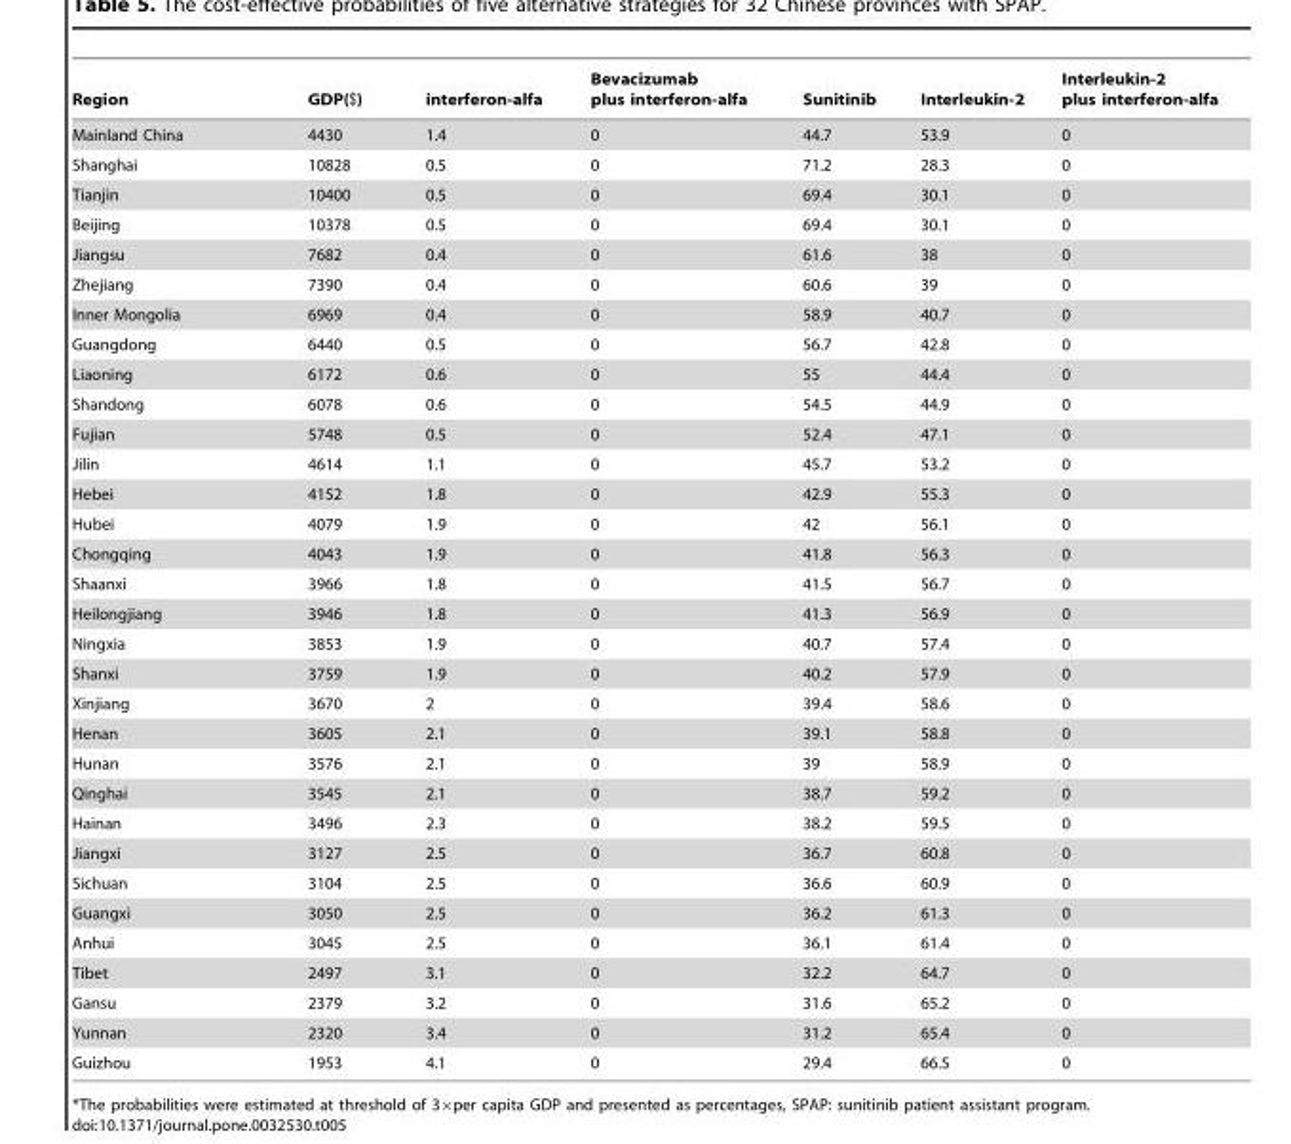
<table><thead><tr><td>Region</td><td>GDP($)</td><td>interferon-alfa</td><td>Bevacizumab plus interferon-alfa</td><td>Sunitinib</td><td>Interleukin-2</td><td>Interleukin-2 plus interferon-alfa</td></tr></thead><tbody><tr><td>Mainland China</td><td>4430</td><td>1.4</td><td>0</td><td>44.7</td><td>53.9</td><td>0</td></tr><tr><td>Shanghai</td><td>10828</td><td>0.5</td><td>0</td><td>71.2</td><td>28.3</td><td>0</td></tr><tr><td>Tianjin</td><td>10400</td><td>0.5</td><td>0</td><td>69.4</td><td>30.1</td><td>0</td></tr><tr><td>Beijing</td><td>10378</td><td>0.5</td><td>0</td><td>69.4</td><td>30.1</td><td>0</td></tr><tr><td>Jiangsu</td><td>7682</td><td>0.4</td><td>0</td><td>61.6</td><td>38</td><td>0</td></tr><tr><td>Zhejiang</td><td>7390</td><td>0.4</td><td>0</td><td>60.6</td><td>39</td><td>0</td></tr><tr><td>Inner Mongolia</td><td>6969</td><td>0.4</td><td>0</td><td>58.9</td><td>40.7</td><td>0</td></tr><tr><td>Guangdong</td><td>6440</td><td>0.5</td><td>0</td><td>56.7</td><td>42.8</td><td>0</td></tr><tr><td>Liaoning</td><td>6172</td><td>0.6</td><td>0</td><td>55</td><td>44.4</td><td>0</td></tr><tr><td>Shandong</td><td>6078</td><td>0.6</td><td>0</td><td>54.5</td><td>44.9</td><td>0</td></tr><tr><td>Fujian</td><td>5748</td><td>0.5</td><td>0</td><td>52.4</td><td>47.1</td><td>0</td></tr><tr><td>Jilin</td><td>4614</td><td>1.1</td><td>0</td><td>45.7</td><td>53.2</td><td>0</td></tr><tr><td>Hebei</td><td>4152</td><td>1.8</td><td>0</td><td>42.9</td><td>55.3</td><td>0</td></tr><tr><td>Hubei</td><td>4079</td><td>1.9</td><td>0</td><td>42</td><td>56.1</td><td>0</td></tr><tr><td>Chongqing</td><td>4043</td><td>1.9</td><td>0</td><td>41.8</td><td>56.3</td><td>0</td></tr><tr><td>Shaanxi</td><td>3966</td><td>1.8</td><td>0</td><td>41.5</td><td>56.7</td><td>0</td></tr><tr><td>Heilongjiang</td><td>3946</td><td>1.8</td><td>0</td><td>41.3</td><td>56.9</td><td>0</td></tr><tr><td>Ningxia</td><td>3853</td><td>1.9</td><td>0</td><td>40.7</td><td>57.4</td><td>0</td></tr><tr><td>Shanxi</td><td>3759</td><td>1.9</td><td>0</td><td>40.2</td><td>57.9</td><td>0</td></tr><tr><td>Xinjiang</td><td>3670</td><td>2</td><td>0</td><td>39.4</td><td>58.6</td><td>0</td></tr><tr><td>Henan</td><td>3605</td><td>2.1</td><td>0</td><td>39.1</td><td>58.8</td><td>0</td></tr><tr><td>Hunan</td><td>3576</td><td>2.1</td><td>0</td><td>39</td><td>58.9</td><td>0</td></tr><tr><td>Qinghai</td><td>3545</td><td>2.1</td><td>0</td><td>38.7</td><td>59.2</td><td>0</td></tr><tr><td>Hainan</td><td>3496</td><td>2.3</td><td>0</td><td>38.2</td><td>59.5</td><td>0</td></tr><tr><td>Jiangxi</td><td>3127</td><td>2.5</td><td>0</td><td>36.7</td><td>60.8</td><td>0</td></tr><tr><td>Sichuan</td><td>3104</td><td>2.5</td><td>0</td><td>36.6</td><td>60.9</td><td>0</td></tr><tr><td>Guangxi</td><td>3050</td><td>2.5</td><td>0</td><td>36.2</td><td>61.3</td><td>0</td></tr><tr><td>Anhui</td><td>3045</td><td>2.5</td><td>0</td><td>36.1</td><td>61.4</td><td>0</td></tr><tr><td>Tibet</td><td>2497</td><td>3.1</td><td>0</td><td>32.2</td><td>64.7</td><td>0</td></tr><tr><td>Gansu</td><td>2379</td><td>3.2</td><td>0</td><td>31.6</td><td>65.2</td><td>0</td></tr><tr><td>Yunnan</td><td>2320</td><td>3.4</td><td>0</td><td>31.2</td><td>65.4</td><td>0</td></tr><tr><td>Guizhou</td><td>1953</td><td>4.1</td><td>0</td><td>29.4</td><td>66.5</td><td>0</td></tr></tbody></table>